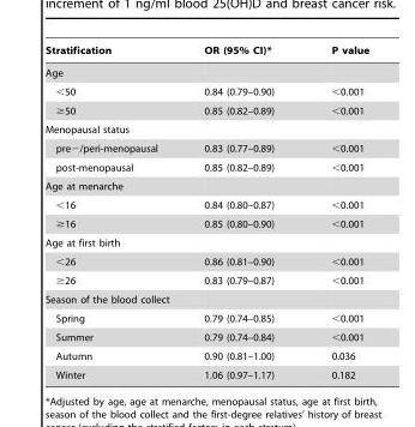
<table><thead><tr><td>Stratification</td><td>OR (95% CI)*</td><td>P value</td></tr></thead><tbody><tr><td colspan="3">Age</td></tr><tr><td>&lt;50</td><td>0.84 (0.79–0.90)</td><td>&lt;0.001</td></tr><tr><td>≥50</td><td>0.85 (0.82–0.89)</td><td>&lt;0.001</td></tr><tr><td colspan="3">Menopausal status</td></tr><tr><td>pre−/peri-menopausal</td><td>0.83 (0.77–0.89)</td><td>&lt;0.001</td></tr><tr><td>post-menopausal</td><td>0.85 (0.82–0.89)</td><td>&lt;0.001</td></tr><tr><td colspan="3">Age at menarche</td></tr><tr><td>&lt;16</td><td>0.84 (0.80–0.87)</td><td>&lt;0.001</td></tr><tr><td>≥16</td><td>0.85 (0.80–0.90)</td><td>&lt;0.001</td></tr><tr><td colspan="3">Age at first birth</td></tr><tr><td>&lt;26</td><td>0.86 (0.81–0.90)</td><td>&lt;0.001</td></tr><tr><td>≥26</td><td>0.83 (0.79–0.87)</td><td>&lt;0.001</td></tr><tr><td colspan="3">Season of the blood collect</td></tr><tr><td>Spring</td><td>0.79 (0.74–0.85)</td><td>&lt;0.001</td></tr><tr><td>Summer</td><td>0.79 (0.74–0.84)</td><td>&lt;0.001</td></tr><tr><td>Autumn</td><td>0.90 (0.81–1.00)</td><td>0.036</td></tr><tr><td>Winter</td><td>1.06 (0.97–1.17)</td><td>0.182</td></tr></tbody></table>